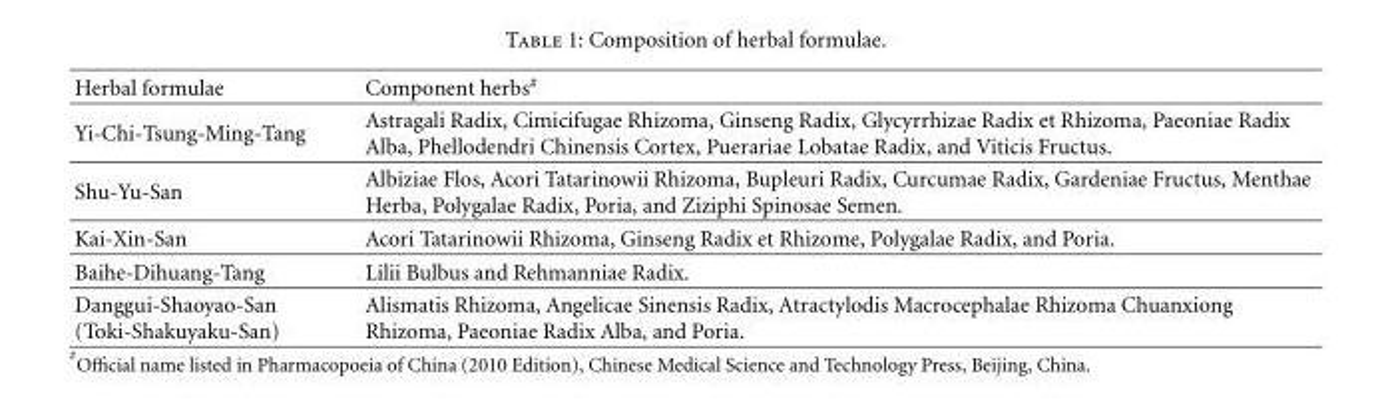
<table><thead><tr><td>Herbal formulae</td><td>Component herbs<sup>#</sup></td></tr></thead><tbody><tr><td>Yi-Chi-Tsung-Ming-Tang</td><td>Astragali Radix, Cimicifugae Rhizoma, Ginseng Radix, Glycyrrhizae Radix et Rhizoma, Paeoniae Radix Alba, Phellodendri Chinensis Cortex, Puerariae Lobatae Radix, and Viticis Fructus.</td></tr><tr><td>Shu-Yu-San</td><td>Albiziae Flos, Acori Tatarinowii Rhizoma, Bupleuri Radix, Curcumae Radix, Gardeniae Fructus, Menthae Herba, Polygalae Radix, Poria, and Ziziphi Spinosae Semen.</td></tr><tr><td>Kai-Xin-San</td><td>Acori Tatarinowii Rhizoma, Ginseng Radix et Rhizome, Polygalae Radix, and Poria.</td></tr><tr><td>Baihe-Dihuang-Tang</td><td>Lilii Bulbus and Rehmanniae Radix.</td></tr><tr><td>Danggui-Shaoyao-San (Toki-Shakuyaku-San)</td><td>Alismatis Rhizoma, Angelicae Sinensis Radix, Atractylodis Macrocephalae Rhizoma Chuanxiong Rhizoma, Paeoniae Radix Alba, and Poria.</td></tr></tbody></table>